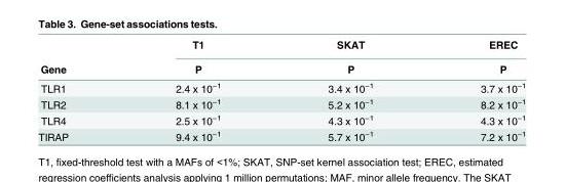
<table><thead><tr><td rowspan="2">Gene</td><td rowspan="2">T1 P</td><td rowspan="2">SKAT P</td><td rowspan="2">EREC P</td></tr><tr></tr></thead><tbody><tr><td>TLR1</td><td>2.4 x 10<sup>−1</sup></td><td>3.4 x 10<sup>−1</sup></td><td>3.7 x 10<sup>−1</sup></td></tr><tr><td>TLR2</td><td>8.1 x 10<sup>−1</sup></td><td>5.2 x 10<sup>−1</sup></td><td>8.2 x 10<sup>−1</sup></td></tr><tr><td>TLR4</td><td>2.5 x 10<sup>−1</sup></td><td>4.3 x 10<sup>−1</sup></td><td>4.3 x 10<sup>−1</sup></td></tr><tr><td>TIRAP</td><td>9.4 x 10<sup>−1</sup></td><td>5.7 x 10<sup>−1</sup></td><td>7.2 x 10<sup>−1</sup></td></tr></tbody></table>